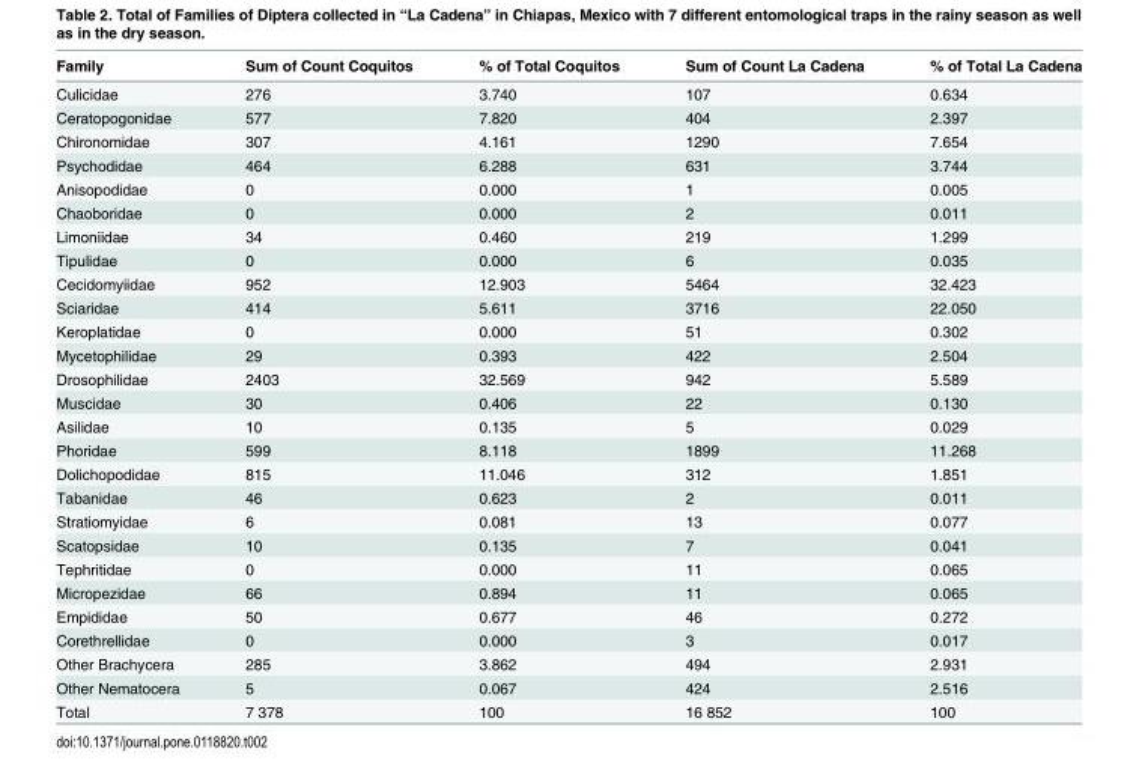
<table><thead><tr><td>Family</td><td>Sum of Count Coquitos</td><td>% of Total Coquitos</td><td>Sum of Count La Cadena</td><td>% of Total La Cadena</td></tr></thead><tbody><tr><td>Culicidae</td><td>276</td><td>3.740</td><td>107</td><td>0.634</td></tr><tr><td>Ceratopogonidae</td><td>577</td><td>7.820</td><td>404</td><td>2.397</td></tr><tr><td>Chironomidae</td><td>307</td><td>4.161</td><td>1290</td><td>7.654</td></tr><tr><td>Psychodidae</td><td>464</td><td>6.288</td><td>631</td><td>3.744</td></tr><tr><td>Anisopodidae</td><td>0</td><td>0.000</td><td>1</td><td>0.005</td></tr><tr><td>Chaoboridae</td><td>0</td><td>0.000</td><td>2</td><td>0.011</td></tr><tr><td>Limoniidae</td><td>34</td><td>0.460</td><td>219</td><td>1.299</td></tr><tr><td>Tipulidae</td><td>0</td><td>0.000</td><td>6</td><td>0.035</td></tr><tr><td>Cecidomyiidae</td><td>952</td><td>12.903</td><td>5464</td><td>32.423</td></tr><tr><td>Sciaridae</td><td>414</td><td>5.611</td><td>3716</td><td>22.050</td></tr><tr><td>Keroplatidae</td><td>0</td><td>0.000</td><td>51</td><td>0.302</td></tr><tr><td>Mycetophilidae</td><td>29</td><td>0.393</td><td>422</td><td>2.504</td></tr><tr><td>Drosophilidae</td><td>2403</td><td>32.569</td><td>942</td><td>5.589</td></tr><tr><td>Muscidae</td><td>30</td><td>0.406</td><td>22</td><td>0.130</td></tr><tr><td>Asilidae</td><td>10</td><td>0.135</td><td>5</td><td>0.029</td></tr><tr><td>Phoridae</td><td>599</td><td>8.118</td><td>1899</td><td>11.268</td></tr><tr><td>Dolichopodidae</td><td>815</td><td>11.046</td><td>312</td><td>1.851</td></tr><tr><td>Tabanidae</td><td>46</td><td>0.623</td><td>2</td><td>0.011</td></tr><tr><td>Stratiomyidae</td><td>6</td><td>0.081</td><td>13</td><td>0.077</td></tr><tr><td>Scatopsidae</td><td>10</td><td>0.135</td><td>7</td><td>0.041</td></tr><tr><td>Tephritidae</td><td>0</td><td>0.000</td><td>11</td><td>0.065</td></tr><tr><td>Micropezidae</td><td>66</td><td>0.894</td><td>11</td><td>0.065</td></tr><tr><td>Empididae</td><td>50</td><td>0.677</td><td>46</td><td>0.272</td></tr><tr><td>Corethrellidae</td><td>0</td><td>0.000</td><td>3</td><td>0.017</td></tr><tr><td>Other Brachycera</td><td>285</td><td>3.862</td><td>494</td><td>2.931</td></tr><tr><td>Other Nematocera</td><td>5</td><td>0.067</td><td>424</td><td>2.516</td></tr><tr><td>Total</td><td>7 378</td><td>100</td><td>16 852</td><td>100</td></tr></tbody></table>